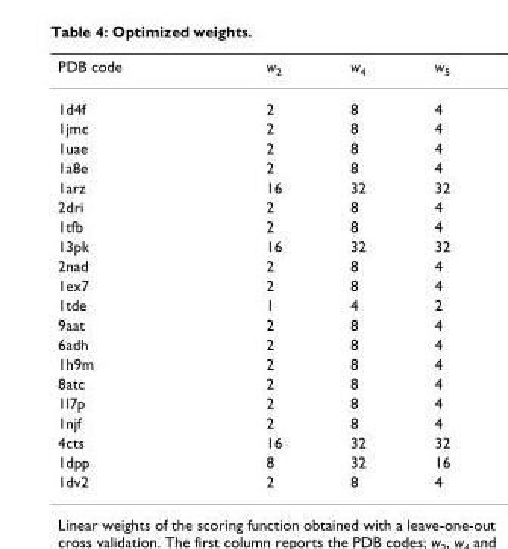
<table><thead><tr><td>PDB code</td><td>w2</td><td>w4</td><td>w5</td></tr></thead><tbody><tr><td>1d4f</td><td>2</td><td>8</td><td>4</td></tr><tr><td>1jmc</td><td>2</td><td>8</td><td>4</td></tr><tr><td>1uae</td><td>2</td><td>8</td><td>4</td></tr><tr><td>1a8e</td><td>2</td><td>8</td><td>4</td></tr><tr><td>1arz</td><td>16</td><td>32</td><td>32</td></tr><tr><td>2dri</td><td>2</td><td>8</td><td>4</td></tr><tr><td>1tfb</td><td>2</td><td>8</td><td>4</td></tr><tr><td>13pk</td><td>16</td><td>32</td><td>32</td></tr><tr><td>2nad</td><td>2</td><td>8</td><td>4</td></tr><tr><td>1ex7</td><td>2</td><td>8</td><td>4</td></tr><tr><td>1tde</td><td>1</td><td>4</td><td>2</td></tr><tr><td>9aat</td><td>2</td><td>8</td><td>4</td></tr><tr><td>6adh</td><td>2</td><td>8</td><td>4</td></tr><tr><td>1h9m</td><td>2</td><td>8</td><td>4</td></tr><tr><td>8atc</td><td>2</td><td>8</td><td>4</td></tr><tr><td>1l7p</td><td>2</td><td>8</td><td>4</td></tr><tr><td>1njf</td><td>2</td><td>8</td><td>4</td></tr><tr><td>4cts</td><td>16</td><td>32</td><td>32</td></tr><tr><td>1dpp</td><td>8</td><td>32</td><td>16</td></tr><tr><td>1dv2</td><td>2</td><td>8</td><td>4</td></tr></tbody></table>